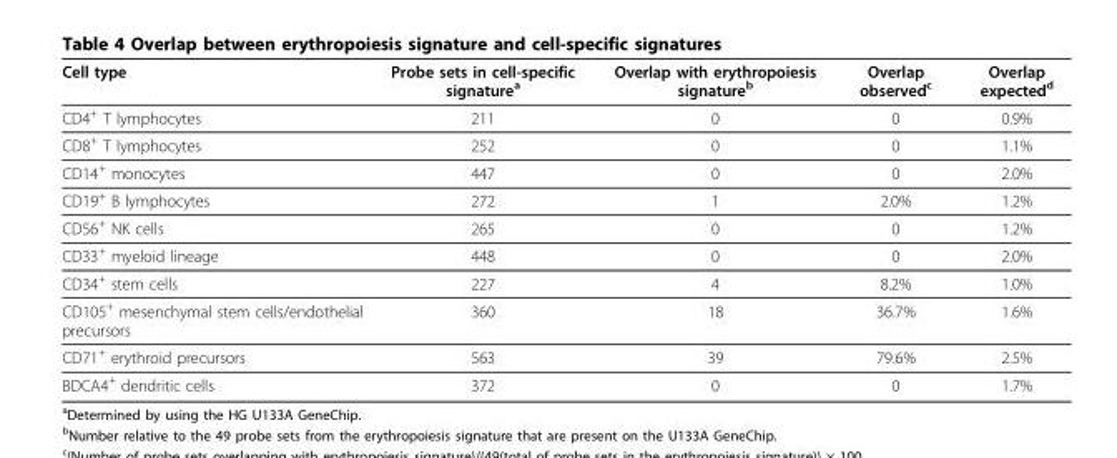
<table><thead><tr><td>Cell type</td><td>Probe sets in cell-specific signature<sup>a</sup></td><td>Overlap with erythropoiesis signature<sup>b</sup></td><td>Overlap observed<sup>c</sup></td><td>Overlap expected<sup>d</sup></td></tr></thead><tbody><tr><td>CD4<sup>+</sup> T lymphocytes</td><td>211</td><td>0</td><td>0</td><td>0.9%</td></tr><tr><td>CD8<sup>+</sup> T lymphocytes</td><td>252</td><td>0</td><td>0</td><td>1.1%</td></tr><tr><td>CD14<sup>+</sup> monocytes</td><td>447</td><td>0</td><td>0</td><td>2.0%</td></tr><tr><td>CD19<sup>+</sup> B lymphocytes</td><td>272</td><td>1</td><td>2.0%</td><td>1.2%</td></tr><tr><td>CD56<sup>+</sup> NK cells</td><td>265</td><td>0</td><td>0</td><td>1.2%</td></tr><tr><td>CD33<sup>+</sup> myeloid lineage</td><td>448</td><td>0</td><td>0</td><td>2.0%</td></tr><tr><td>CD34<sup>+</sup> stem cells</td><td>227</td><td>4</td><td>8.2%</td><td>1.0%</td></tr><tr><td>CD105<sup>+</sup> mesenchymal stem cells/endothelial precursors</td><td>360</td><td>18</td><td>36.7%</td><td>1.6%</td></tr><tr><td>CD71<sup>+</sup> erythroid precursors</td><td>563</td><td>39</td><td>79.6%</td><td>2.5%</td></tr><tr><td>BDCA4<sup>+</sup> dendritic cells</td><td>372</td><td>0</td><td>0</td><td>1.7%</td></tr></tbody></table>